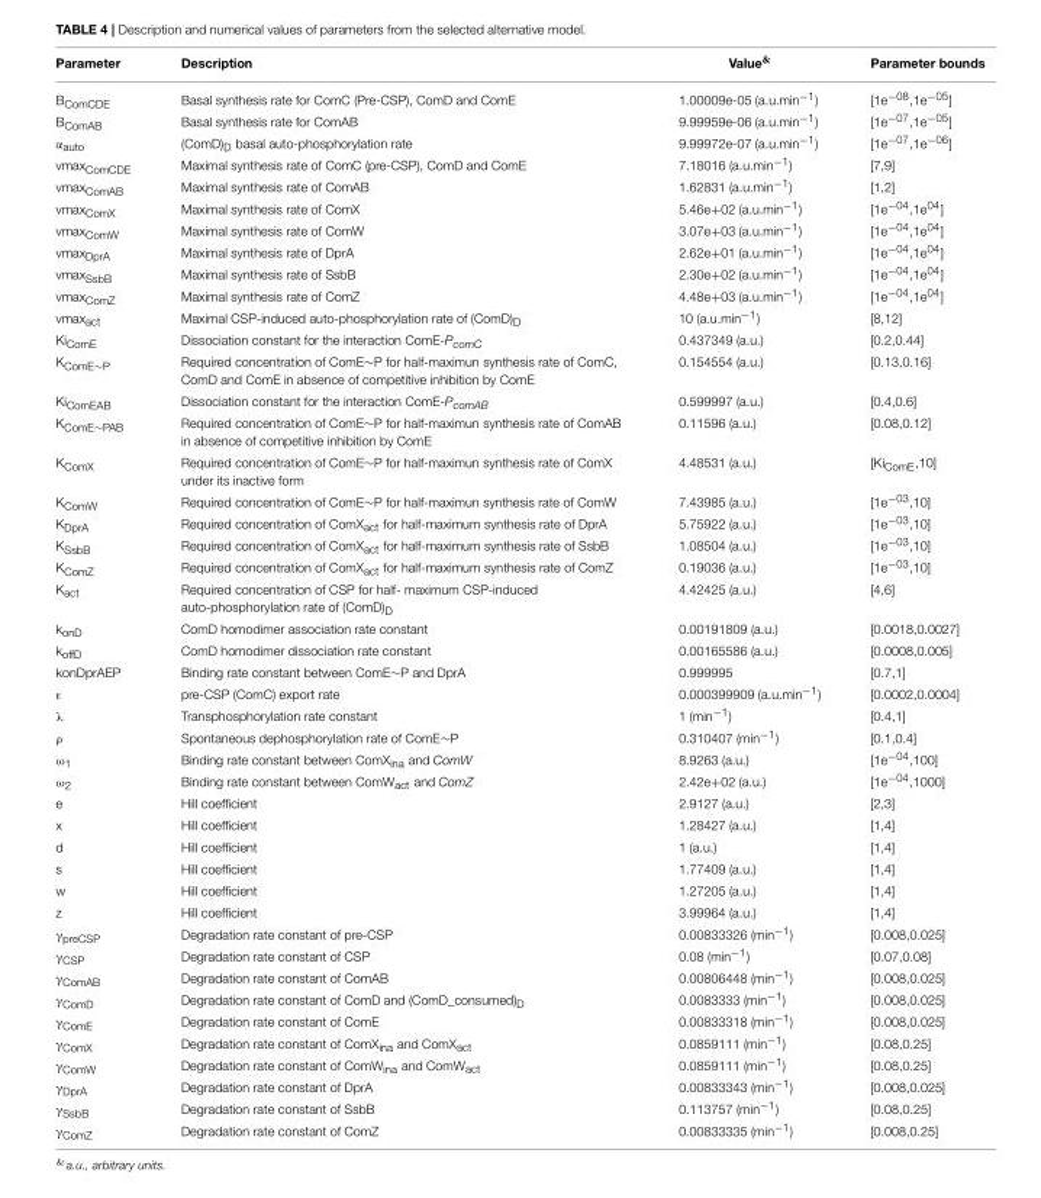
<table><thead><tr><td>Parameter</td><td>Description</td><td>Value<sup>&amp;</sup></td><td>Parameter bounds</td></tr></thead><tbody><tr><td>B<sub>ComCDE</sub></td><td>Basal synthesis rate for ComC (Pre-CSP), ComD and ComE</td><td>1.00009e-05 (a.u.min<sup>−1</sup>)</td><td>[1e<sup>−08</sup>,1e<sup>−05</sup>]</td></tr><tr><td>B<sub>ComAB</sub></td><td>Basal synthesis rate for ComAB</td><td>9.99959e-06 (a.u.min<sup>−1</sup>)</td><td>[1e<sup>−07</sup>,1e<sup>−05</sup>]</td></tr><tr><td>α<sub>auto</sub></td><td>(ComD)<sub>D</sub> basal auto-phosphorylation rate</td><td>9.99972e-07 (a.u.min<sup>−1</sup>)</td><td>[1e<sup>−07</sup>,1e<sup>−06</sup>]</td></tr><tr><td>vmax<sub>ComCDE</sub></td><td>Maximal synthesis rate of ComC (pre-CSP), ComD and ComE</td><td>7.18016 (a.u.min<sup>−1</sup>)</td><td>[7,9]</td></tr><tr><td>vmax<sub>ComAB</sub></td><td>Maximal synthesis rate of ComAB</td><td>1.62831 (a.u.min<sup>−1</sup>)</td><td>[1,2]</td></tr><tr><td>vmax<sub>ComX</sub></td><td>Maximal synthesis rate of ComX</td><td>5.46e+02 (a.u.min<sup>−1</sup>)</td><td>[1e<sup>−04</sup>,1e<sup>04</sup>]</td></tr><tr><td>vmax<sub>ComW</sub></td><td>Maximal synthesis rate of ComW</td><td>3.07e+03 (a.u.min<sup>−1</sup>)</td><td>[1e<sup>−04</sup>,1e<sup>04</sup>]</td></tr><tr><td>vmax<sub>DprA</sub></td><td>Maximal synthesis rate of DprA</td><td>2.62e+01 (a.u.min<sup>−1</sup>)</td><td>[1e<sup>−04</sup>,1e<sup>04</sup>]</td></tr><tr><td>vmax<sub>SsbB</sub></td><td>Maximal synthesis rate of SsbB</td><td>2.30e+02 (a.u.min<sup>−1</sup>)</td><td>[1e<sup>−04</sup>,1e<sup>04</sup>]</td></tr><tr><td>vmax<sub>ComZ</sub></td><td>Maximal synthesis rate of ComZ</td><td>4.48e+03 (a.u.min<sup>−1</sup>)</td><td>[1e<sup>−04</sup>,1e<sup>04</sup>]</td></tr><tr><td>vmax<sub>act</sub></td><td>Maximal CSP-induced auto-phosphorylation rate of (ComD)<sub>D</sub></td><td>10 (a.u.min<sup>−1</sup>)</td><td>[8,12]</td></tr><tr><td>Ki<sub>ComE</sub></td><td>Dissociation constant for the interaction ComE-PcomC</td><td>0.437349 (a.u.)</td><td>[0.2,0.44]</td></tr><tr><td>KComE∼P</td><td>Required concentration of ComE∼P for half-maximun synthesis rate of ComC, ComD and ComE in absence of competitive inhibition by ComE</td><td>0.154554 (a.u.)</td><td>[0.13,0.16]</td></tr><tr><td>Ki<sub>ComEAB</sub></td><td>Dissociation constant for the interaction ComE-PcomAB</td><td>0.599997 (a.u.)</td><td>[0.4,0.6]</td></tr><tr><td>KComE∼PAB</td><td>Required concentration of ComE∼P for half-maximun synthesis rate of ComAB in absence of competitive inhibition by ComE</td><td>0.11596 (a.u.)</td><td>[0.08,0.12]</td></tr><tr><td>K<sub>ComX</sub></td><td>Required concentration of ComE∼P for half-maximun synthesis rate of ComX under its inactive form</td><td>4.48531 (a.u.)</td><td>[Ki<sub>ComE</sub>,10]</td></tr><tr><td>K<sub>ComW</sub></td><td>Required concentration of ComE∼P for half-maximun synthesis rate of ComW</td><td>7.43985 (a.u.)</td><td>[1e<sup>−03</sup>,10]</td></tr><tr><td>K<sub>DprA</sub></td><td>Required concentration of ComX<sub>act</sub> for half-maximum synthesis rate of DprA</td><td>5.75922 (a.u.)</td><td>[1e<sup>−03</sup>,10]</td></tr><tr><td>K<sub>SsbB</sub></td><td>Required concentration of ComX<sub>act</sub> for half-maximum synthesis rate of SsbB</td><td>1.08504 (a.u.)</td><td>[1e<sup>−03</sup>,10]</td></tr><tr><td>K<sub>ComZ</sub></td><td>Required concentration of ComX<sub>act</sub> for half-maximum synthesis rate of ComZ</td><td>0.19036 (a.u.)</td><td>[1e<sup>−03</sup>,10]</td></tr><tr><td>K<sub>act</sub></td><td>Required concentration of CSP for half- maximum CSP-induced auto-phosphorylation rate of (ComD)<sub>D</sub></td><td>4.42425 (a.u.)</td><td>[4,6]</td></tr><tr><td>k<sub>onD</sub></td><td>ComD homodimer association rate constant</td><td>0.00191809 (a.u.)</td><td>[0.0018,0.0027]</td></tr><tr><td>k<sub>offD</sub></td><td>ComD homodimer dissociation rate constant</td><td>0.00165586 (a.u.)</td><td>[0.0008,0.005]</td></tr><tr><td>konDprAEP</td><td>Binding rate constant between ComE∼P and DprA</td><td>0.999995</td><td>[0.7,1]</td></tr><tr><td>ε</td><td>pre-CSP (ComC) export rate</td><td>0.000399909 (a.u.min<sup>−1</sup>)</td><td>[0.0002,0.0004]</td></tr><tr><td>λ</td><td>Transphosphorylation rate constant</td><td>1 (min<sup>−1</sup>)</td><td>[0.4,1]</td></tr><tr><td>ρ</td><td>Spontaneous dephosphorylation rate of ComE∼P</td><td>0.310407 (min<sup>−1</sup>)</td><td>[0.1,0.4]</td></tr><tr><td>ω<sub>1</sub></td><td>Binding rate constant between ComX<sub>ina</sub> and ComW</td><td>8.9263 (a.u.)</td><td>[1e<sup>−04</sup>,100]</td></tr><tr><td>ω<sub>2</sub></td><td>Binding rate constant between ComW<sub>act</sub> and ComZ</td><td>2.42e+02 (a.u.)</td><td>[1e<sup>−04</sup>,1000]</td></tr><tr><td>e</td><td>Hill coefficient</td><td>2.9127 (a.u.)</td><td>[2,3]</td></tr><tr><td>x</td><td>Hill coefficient</td><td>1.28427 (a.u.)</td><td>[1,4]</td></tr><tr><td>d</td><td>Hill coefficient</td><td>1 (a.u.)</td><td>[1,4]</td></tr><tr><td>s</td><td>Hill coefficient</td><td>1.77409 (a.u.)</td><td>[1,4]</td></tr><tr><td>w</td><td>Hill coefficient</td><td>1.27205 (a.u.)</td><td>[1,4]</td></tr><tr><td>z</td><td>Hill coefficient</td><td>3.99964 (a.u.)</td><td>[1,4]</td></tr><tr><td>γ<sub>preCSP</sub></td><td>Degradation rate constant of pre-CSP</td><td>0.00833326 (min<sup>−1</sup>)</td><td>[0.008,0.025]</td></tr><tr><td>γ<sub>CSP</sub></td><td>Degradation rate constant of CSP</td><td>0.08 (min<sup>−1</sup>)</td><td>[0.07,0.08]</td></tr><tr><td>γ<sub>ComAB</sub></td><td>Degradation rate constant of ComAB</td><td>0.00806448 (min<sup>−1</sup>)</td><td>[0.008,0.025]</td></tr><tr><td>γ<sub>ComD</sub></td><td>Degradation rate constant of ComD and (ComD_consumed)<sub>D</sub></td><td>0.0083333 (min<sup>−1</sup>)</td><td>[0.008,0.025]</td></tr><tr><td>γ<sub>ComE</sub></td><td>Degradation rate constant of ComE</td><td>0.00833318 (min<sup>−1</sup>)</td><td>[0.008,0.025]</td></tr><tr><td>γ<sub>ComX</sub></td><td>Degradation rate constant of ComX<sub>ina</sub> and ComX<sub>act</sub></td><td>0.0859111 (min<sup>−1</sup>)</td><td>[0.08,0.25]</td></tr><tr><td>γ<sub>ComW</sub></td><td>Degradation rate constant of ComW<sub>ina</sub> and ComW<sub>act</sub></td><td>0.0859111 (min<sup>−1</sup>)</td><td>[0.08,0.25]</td></tr><tr><td>γ<sub>DprA</sub></td><td>Degradation rate constant of DprA</td><td>0.00833343 (min<sup>−1</sup>)</td><td>[0.008,0.025]</td></tr><tr><td>γ<sub>SsbB</sub></td><td>Degradation rate constant of SsbB</td><td>0.113757 (min<sup>−1</sup>)</td><td>[0.08,0.25]</td></tr><tr><td>γ<sub>ComZ</sub></td><td>Degradation rate constant of ComZ</td><td>0.00833335 (min<sup>−1</sup>)</td><td>[0.008,0.25]</td></tr></tbody></table>